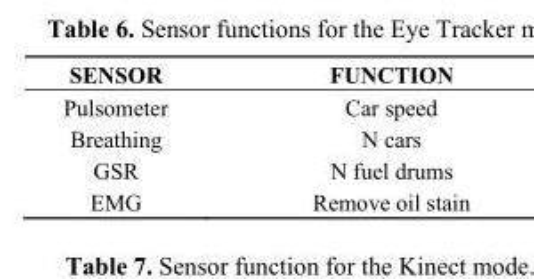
<table><thead><tr><td>SENSOR</td><td>FUNCTION</td></tr></thead><tbody><tr><td>Pulsometer</td><td>Car speed</td></tr><tr><td>Breathing</td><td>N cars</td></tr><tr><td>GSR</td><td>N fuel drums</td></tr><tr><td>EMG</td><td>Remove oil stain</td></tr></tbody></table>